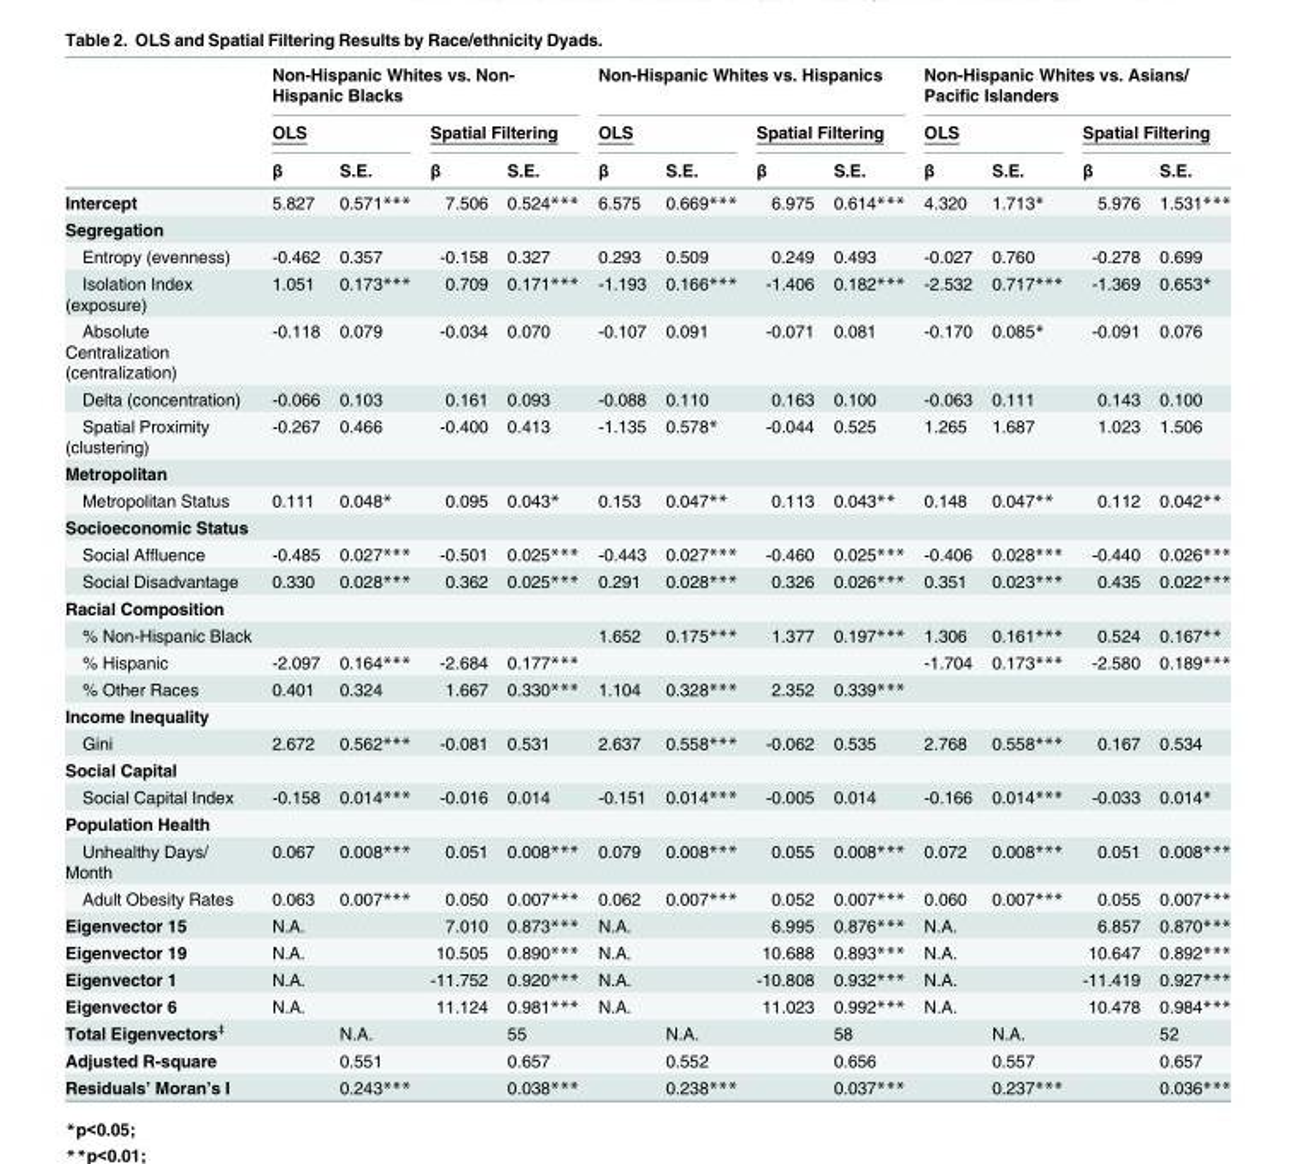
<table><thead><tr><td rowspan="3"></td><td colspan="4">Non-Hispanic Whites vs. Non- Hispanic Blacks</td><td colspan="4">Non-Hispanic Whites vs. Hispanics</td><td colspan="4">Non-Hispanic Whites vs. Asians/ Pacific Islanders</td></tr><tr><td colspan="2">OLS</td><td colspan="2">Spatial Filtering</td><td colspan="2">OLS</td><td colspan="2">Spatial Filtering</td><td colspan="2">OLS</td><td colspan="2">Spatial Filtering</td></tr><tr><td>β</td><td>S.E.</td><td>β</td><td>S.E.</td><td>β</td><td>S.E.</td><td>β</td><td>S.E.</td><td>β</td><td>S.E.</td><td>β</td><td>S.E.</td></tr></thead><tbody><tr><td>Intercept</td><td>5.827</td><td>0.571***</td><td>7.506</td><td>0.524***</td><td>6.575</td><td>0.669***</td><td>6.975</td><td>0.614***</td><td>4.320</td><td>1.713*</td><td>5.976</td><td>1.531***</td></tr><tr><td colspan="13">Segregation</td></tr><tr><td>Entropy (evenness)</td><td>-0.462</td><td>0.357</td><td>-0.158</td><td>0.327</td><td>0.293</td><td>0.509</td><td>0.249</td><td>0.493</td><td>-0.027</td><td>0.760</td><td>-0.278</td><td>0.699</td></tr><tr><td>Isolation Index (exposure)</td><td>1.051</td><td>0.173***</td><td>0.709</td><td>0.171***</td><td>-1.193</td><td>0.166***</td><td>-1.406</td><td>0.182***</td><td>-2.532</td><td>0.717***</td><td>-1.369</td><td>0.653*</td></tr><tr><td>Absolute Centralization (centralization)</td><td>-0.118</td><td>0.079</td><td>-0.034</td><td>0.070</td><td>-0.107</td><td>0.091</td><td>-0.071</td><td>0.081</td><td>-0.170</td><td>0.085*</td><td>-0.091</td><td>0.076</td></tr><tr><td>Delta (concentration)</td><td>-0.066</td><td>0.103</td><td>0.161</td><td>0.093</td><td>-0.088</td><td>0.110</td><td>0.163</td><td>0.100</td><td>-0.063</td><td>0.111</td><td>0.143</td><td>0.100</td></tr><tr><td>Spatial Proximity (clustering)</td><td>-0.267</td><td>0.466</td><td>-0.400</td><td>0.413</td><td>-1.135</td><td>0.578*</td><td>-0.044</td><td>0.525</td><td>1.265</td><td>1.687</td><td>1.023</td><td>1.506</td></tr><tr><td colspan="13">Metropolitan</td></tr><tr><td>Metropolitan Status</td><td>0.111</td><td>0.048*</td><td>0.095</td><td>0.043*</td><td>0.153</td><td>0.047**</td><td>0.113</td><td>0.043**</td><td>0.148</td><td>0.047**</td><td>0.112</td><td>0.042**</td></tr><tr><td colspan="13">Socioeconomic Status</td></tr><tr><td>Social Affluence</td><td>-0.485</td><td>0.027***</td><td>-0.501</td><td>0.025***</td><td>-0.443</td><td>0.027***</td><td>-0.460</td><td>0.025***</td><td>-0.406</td><td>0.028***</td><td>-0.440</td><td>0.026***</td></tr><tr><td>Social Disadvantage</td><td>0.330</td><td>0.028***</td><td>0.362</td><td>0.025***</td><td>0.291</td><td>0.028***</td><td>0.326</td><td>0.026***</td><td>0.351</td><td>0.023***</td><td>0.435</td><td>0.022***</td></tr><tr><td colspan="13">Racial Composition</td></tr><tr><td>% Non-Hispanic Black</td><td></td><td></td><td></td><td></td><td>1.652</td><td>0.175***</td><td>1.377</td><td>0.197***</td><td>1.306</td><td>0.161***</td><td>0.524</td><td>0.167**</td></tr><tr><td>% Hispanic</td><td>-2.097</td><td>0.164***</td><td>-2.684</td><td>0.177***</td><td></td><td></td><td></td><td></td><td>-1.704</td><td>0.173***</td><td>-2.580</td><td>0.189***</td></tr><tr><td>% Other Races</td><td>0.401</td><td>0.324</td><td>1.667</td><td>0.330***</td><td>1.104</td><td>0.328***</td><td>2.352</td><td>0.339***</td><td></td><td></td><td></td><td></td></tr><tr><td colspan="13">Income Inequality</td></tr><tr><td>Gini</td><td>2.672</td><td>0.562***</td><td>-0.081</td><td>0.531</td><td>2.637</td><td>0.558***</td><td>-0.062</td><td>0.535</td><td>2.768</td><td>0.558***</td><td>0.167</td><td>0.534</td></tr><tr><td colspan="13">Social Capital</td></tr><tr><td>Social Capital Index</td><td>-0.158</td><td>0.014***</td><td>-0.016</td><td>0.014</td><td>-0.151</td><td>0.014***</td><td>-0.005</td><td>0.014</td><td>-0.166</td><td>0.014***</td><td>-0.033</td><td>0.014*</td></tr><tr><td colspan="13">Population Health</td></tr><tr><td>Unhealthy Days/ Month</td><td>0.067</td><td>0.008***</td><td>0.051</td><td>0.008***</td><td>0.079</td><td>0.008***</td><td>0.055</td><td>0.008***</td><td>0.072</td><td>0.008***</td><td>0.051</td><td>0.008***</td></tr><tr><td>Adult Obesity Rates</td><td>0.063</td><td>0.007***</td><td>0.050</td><td>0.007***</td><td>0.062</td><td>0.007***</td><td>0.052</td><td>0.007***</td><td>0.060</td><td>0.007***</td><td>0.055</td><td>0.007***</td></tr><tr><td>Eigenvector 15</td><td>N.A.</td><td></td><td>7.010</td><td>0.873***</td><td>N.A.</td><td></td><td>6.995</td><td>0.876***</td><td>N.A.</td><td></td><td>6.857</td><td>0.870***</td></tr><tr><td>Eigenvector 19</td><td>N.A.</td><td></td><td>10.505</td><td>0.890***</td><td>N.A.</td><td></td><td>10.688</td><td>0.893***</td><td>N.A.</td><td></td><td>10.647</td><td>0.892***</td></tr><tr><td>Eigenvector 1</td><td>N.A.</td><td></td><td>-11.752</td><td>0.920***</td><td>N.A.</td><td></td><td>-10.808</td><td>0.932***</td><td>N.A.</td><td></td><td>-11.419</td><td>0.927***</td></tr><tr><td>Eigenvector 6</td><td>N.A.</td><td></td><td>11.124</td><td>0.981***</td><td>N.A.</td><td></td><td>11.023</td><td>0.992***</td><td>N.A.</td><td></td><td>10.478</td><td>0.984***</td></tr><tr><td>Total Eigenvectors<sup>‡</sup></td><td></td><td>N.A.</td><td></td><td>55</td><td></td><td>N.A.</td><td></td><td>58</td><td></td><td>N.A.</td><td></td><td>52</td></tr><tr><td>Adjusted R-square</td><td></td><td>0.551</td><td></td><td>0.657</td><td></td><td>0.552</td><td></td><td>0.656</td><td></td><td>0.557</td><td></td><td>0.657</td></tr><tr><td>Residuals’ Moran’s I</td><td></td><td>0.243***</td><td></td><td>0.038***</td><td></td><td>0.238***</td><td></td><td>0.037***</td><td></td><td>0.237***</td><td></td><td>0.036***</td></tr></tbody></table>